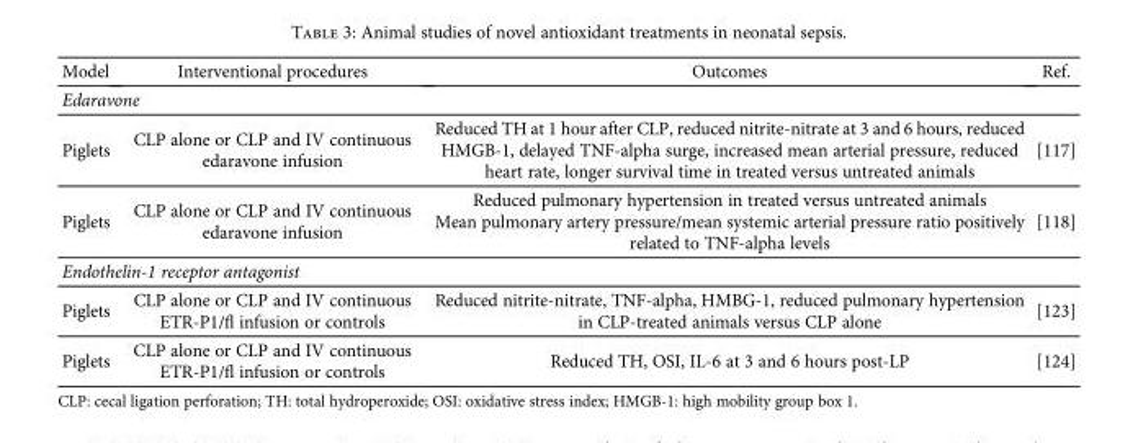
<table><thead><tr><td>Model</td><td>Interventional procedures</td><td>Outcomes</td><td>Ref.</td></tr></thead><tbody><tr><td colspan="4">Edaravone</td></tr><tr><td>Piglets</td><td>CLP alone or CLP and IV continuous edaravone infusion</td><td>Reduced TH at 1 hour after CLP, reduced nitrite-nitrate at 3 and 6 hours, reduced HMGB-1, delayed TNF-alpha surge, increased mean arterial pressure, reduced heart rate, longer survival time in treated versus untreated animals</td><td>[117]</td></tr><tr><td>Piglets</td><td>CLP alone or CLP and IV continuous edaravone infusion</td><td>Reduced pulmonary hypertension in treated versus untreated animals Mean pulmonary artery pressure/mean systemic arterial pressure ratio positively related to TNF-alpha levels</td><td>[118]</td></tr><tr><td colspan="4">Endothelin-1 receptor antagonist</td></tr><tr><td>Piglets</td><td>CLP alone or CLP and IV continuous ETR-P1/fl infusion or controls</td><td>Reduced nitrite-nitrate, TNF-alpha, HMBG-1, reduced pulmonary hypertension in CLP-treated animals versus CLP alone</td><td>[123]</td></tr><tr><td>Piglets</td><td>CLP alone or CLP and IV continuous ETR-P1/fl infusion or controls</td><td>Reduced TH, OSI, IL-6 at 3 and 6 hours post-LP</td><td>[124]</td></tr></tbody></table>